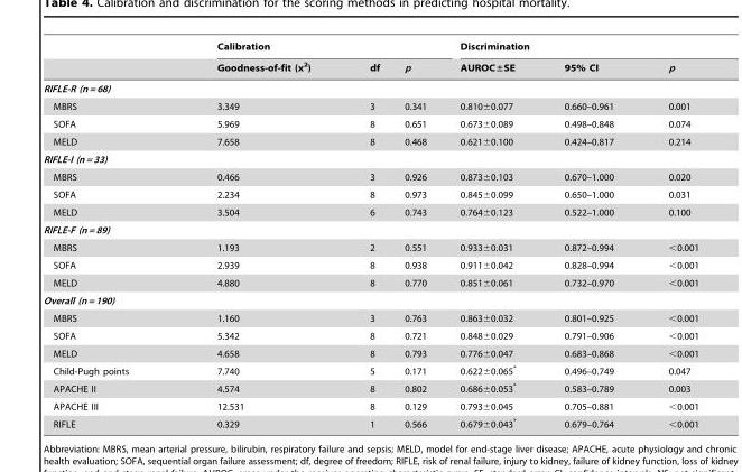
<table><thead><tr><td rowspan="2"></td><td colspan="3">Calibration</td><td colspan="3">Discrimination</td></tr><tr><td>Goodness-of-fit (x<sup>2</sup>)</td><td>df</td><td>p</td><td>AUROC±SE</td><td>95% CI</td><td>p</td></tr></thead><tbody><tr><td colspan="7">RIFLE-R (n = 68)</td></tr><tr><td>MBRS</td><td>3.349</td><td>3</td><td>0.341</td><td>0.810±0.077</td><td>0.660–0.961</td><td>0.001</td></tr><tr><td>SOFA</td><td>5.969</td><td>8</td><td>0.651</td><td>0.673±0.089</td><td>0.498–0.848</td><td>0.074</td></tr><tr><td>MELD</td><td>7.658</td><td>8</td><td>0.468</td><td>0.621±0.100</td><td>0.424–0.817</td><td>0.214</td></tr><tr><td colspan="7">RIFLE-I (n = 33)</td></tr><tr><td>MBRS</td><td>0.466</td><td>3</td><td>0.926</td><td>0.873±0.103</td><td>0.670–1.000</td><td>0.020</td></tr><tr><td>SOFA</td><td>2.234</td><td>8</td><td>0.973</td><td>0.845±0.099</td><td>0.650–1.000</td><td>0.031</td></tr><tr><td>MELD</td><td>3.504</td><td>6</td><td>0.743</td><td>0.764±0.123</td><td>0.522–1.000</td><td>0.100</td></tr><tr><td colspan="7">RIFLE-F (n = 89)</td></tr><tr><td>MBRS</td><td>1.193</td><td>2</td><td>0.551</td><td>0.933±0.031</td><td>0.872–0.994</td><td>&lt;0.001</td></tr><tr><td>SOFA</td><td>2.939</td><td>8</td><td>0.938</td><td>0.911±0.042</td><td>0.828–0.994</td><td>&lt;0.001</td></tr><tr><td>MELD</td><td>4.880</td><td>8</td><td>0.770</td><td>0.851±0.061</td><td>0.732–0.970</td><td>&lt;0.001</td></tr><tr><td colspan="7">Overall (n = 190)</td></tr><tr><td>MBRS</td><td>1.160</td><td>3</td><td>0.763</td><td>0.863±0.032</td><td>0.801–0.925</td><td>&lt;0.001</td></tr><tr><td>SOFA</td><td>5.342</td><td>8</td><td>0.721</td><td>0.848±0.029</td><td>0.791–0.906</td><td>&lt;0.001</td></tr><tr><td>MELD</td><td>4.658</td><td>8</td><td>0.793</td><td>0.776±0.047</td><td>0.683–0.868</td><td>&lt;0.001</td></tr><tr><td>Child-Pugh points</td><td>7.740</td><td>5</td><td>0.171</td><td>0.622±0.065*</td><td>0.496–0.749</td><td>0.047</td></tr><tr><td>APACHE II</td><td>4.574</td><td>8</td><td>0.802</td><td>0.686±0.053*</td><td>0.583–0.789</td><td>0.003</td></tr><tr><td>APACHE III</td><td>12.531</td><td>8</td><td>0.129</td><td>0.793±0.045</td><td>0.705–0.881</td><td>&lt;0.001</td></tr><tr><td>RIFLE</td><td>0.329</td><td>1</td><td>0.566</td><td>0.679±0.043*</td><td>0.679–0.764</td><td>&lt;0.001</td></tr></tbody></table>